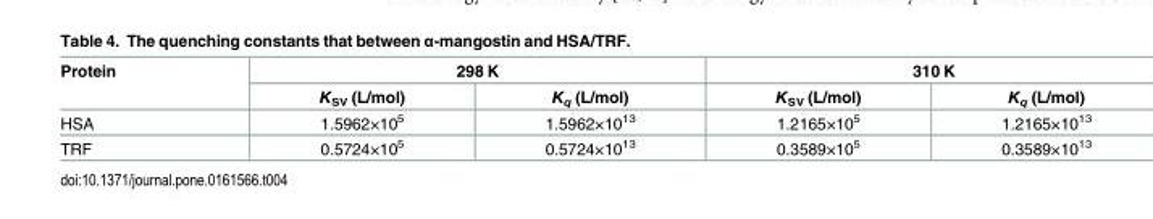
<table><thead><tr><td rowspan="2">Protein</td><td colspan="2">298 K</td><td colspan="2">310 K</td></tr><tr><td>K<sub>SV</sub> (L/mol)</td><td>K<sub>q</sub> (L/mol)</td><td>K<sub>SV</sub> (L/mol)</td><td>K<sub>q</sub> (L/mol)</td></tr></thead><tbody><tr><td>HSA</td><td>1.5962×10<sup>5</sup></td><td>1.5962×10<sup>13</sup></td><td>1.2165×10<sup>5</sup></td><td>1.2165×10<sup>13</sup></td></tr><tr><td>TRF</td><td>0.5724×10<sup>5</sup></td><td>0.5724×10<sup>13</sup></td><td>0.3589×10<sup>5</sup></td><td>0.3589×10<sup>13</sup></td></tr></tbody></table>